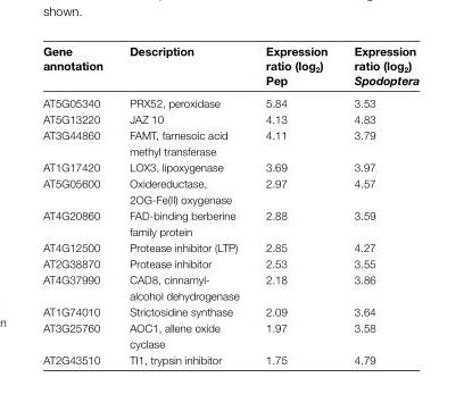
<table><thead><tr><td>Gene annotation</td><td>Description</td><td>Expression ratio (log<sub>2</sub>) Pep</td><td>Expression ratio (log<sub>2</sub>) Spodoptera</td></tr></thead><tbody><tr><td>AT5G05340</td><td>PRX52, peroxidase</td><td>5.84</td><td>3.53</td></tr><tr><td>AT5G13220</td><td>JAZ 10</td><td>4.13</td><td>4.83</td></tr><tr><td>AT3G44860</td><td>FAMT, farnesoic acid methyl transferase</td><td>4.11</td><td>3.79</td></tr><tr><td>AT1G17420</td><td>LOX3, lipoxygenase</td><td>3.69</td><td>3.97</td></tr><tr><td>AT5G05600</td><td>Oxidereductase, 2OG-Fe(II) oxygenase</td><td>2.97</td><td>4.57</td></tr><tr><td>AT4G20860</td><td>FAD-binding berberine family protein</td><td>2.88</td><td>3.59</td></tr><tr><td>AT4G12500</td><td>Protease inhibitor (LTP)</td><td>2.85</td><td>4.27</td></tr><tr><td>AT2G38870</td><td>Protease inhibitor</td><td>2.53</td><td>3.55</td></tr><tr><td>AT4G37990</td><td>CAD8, cinnamyl- alcohol dehydrogenase</td><td>2.18</td><td>3.86</td></tr><tr><td>AT1G74010</td><td>Strictosidine synthase</td><td>2.09</td><td>3.64</td></tr><tr><td>AT3G25760</td><td>AOC1, allene oxide cyclase</td><td>1.97</td><td>3.58</td></tr><tr><td>AT2G43510</td><td>TI1, trypsin inhibitor</td><td>1.75</td><td>4.79</td></tr></tbody></table>